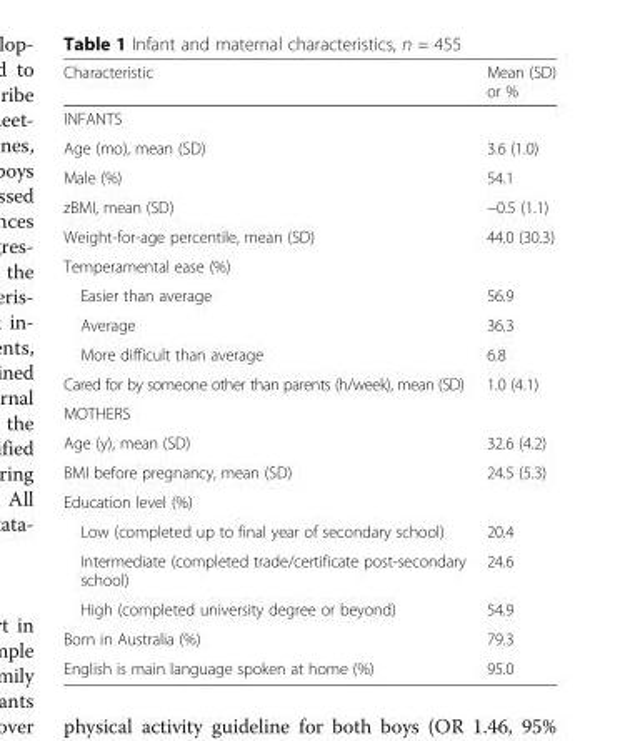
<table><thead><tr><td>Characteristic</td><td>Mean (SD) or %</td></tr></thead><tbody><tr><td colspan="2">INFANTS</td></tr><tr><td>Age (mo), mean (SD)</td><td>3.6 (1.0)</td></tr><tr><td>Male (%)</td><td>54.1</td></tr><tr><td>zBMI, mean (SD)</td><td>−0.5 (1.1)</td></tr><tr><td>Weight-for-age percentile, mean (SD)</td><td>44.0 (30.3)</td></tr><tr><td colspan="2">Temperamental ease (%)</td></tr><tr><td>Easier than average</td><td>56.9</td></tr><tr><td>Average</td><td>36.3</td></tr><tr><td>More difficult than average</td><td>6.8</td></tr><tr><td>Cared for by someone other than parents (h/week), mean (SD)</td><td>1.0 (4.1)</td></tr><tr><td colspan="2">MOTHERS</td></tr><tr><td>Age (y), mean (SD)</td><td>32.6 (4.2)</td></tr><tr><td>BMI before pregnancy, mean (SD)</td><td>24.5 (5.3)</td></tr><tr><td colspan="2">Education level (%)</td></tr><tr><td>Low (completed up to final year of secondary school)</td><td>20.4</td></tr><tr><td>Intermediate (completed trade/certificate post-secondary school)</td><td>24.6</td></tr><tr><td>High (completed university degree or beyond)</td><td>54.9</td></tr><tr><td>Born in Australia (%)</td><td>79.3</td></tr><tr><td>English is main language spoken at home (%)</td><td>95.0</td></tr></tbody></table>